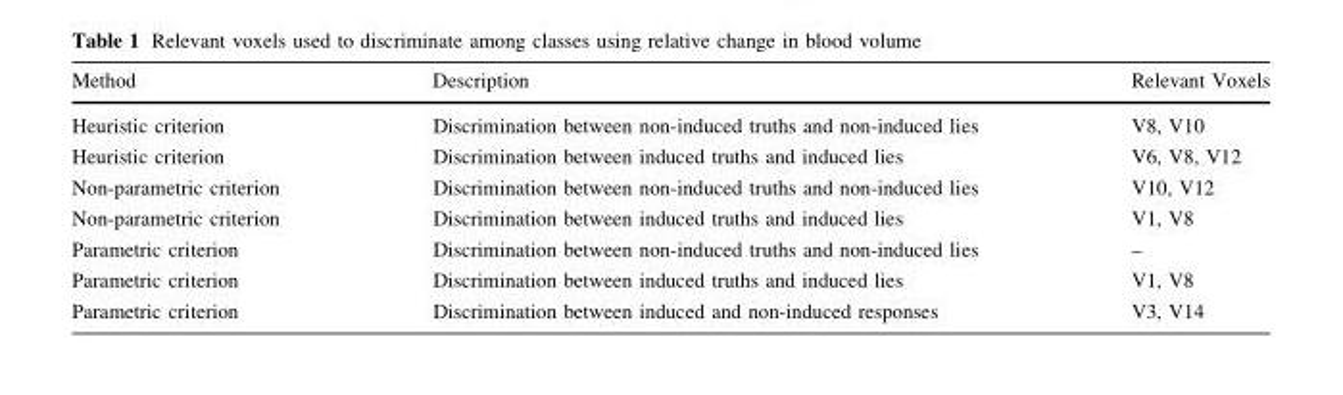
<table><thead><tr><td>Method</td><td>Description</td><td>Relevant Voxels</td></tr></thead><tbody><tr><td>Heuristic criterion</td><td>Discrimination between non-induced truths and non-induced lies</td><td>V8, V10</td></tr><tr><td>Heuristic criterion</td><td>Discrimination between induced truths and induced lies</td><td>V6, V8, V12</td></tr><tr><td>Non-parametric criterion</td><td>Discrimination between non-induced truths and non-induced lies</td><td>V10, V12</td></tr><tr><td>Non-parametric criterion</td><td>Discrimination between induced truths and induced lies</td><td>V1, V8</td></tr><tr><td>Parametric criterion</td><td>Discrimination between non-induced truths and non-induced lies</td><td>–</td></tr><tr><td>Parametric criterion</td><td>Discrimination between induced truths and induced lies</td><td>V1, V8</td></tr><tr><td>Parametric criterion</td><td>Discrimination between induced and non-induced responses</td><td>V3, V14</td></tr></tbody></table>